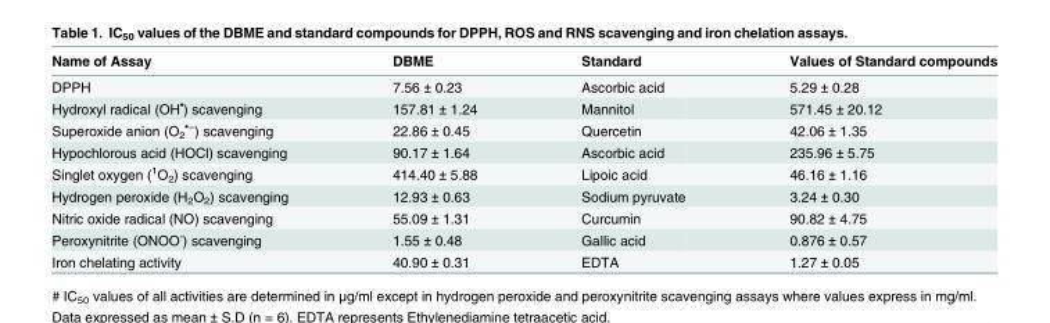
<table><thead><tr><td>Name of Assay</td><td>DBME</td><td>Standard</td><td>Values of Standard compounds</td></tr></thead><tbody><tr><td>DPPH</td><td>7.56 ± 0.23</td><td>Ascorbic acid</td><td>5.29 ± 0.28</td></tr><tr><td>Hydroxyl radical (OH<sup>•</sup>) scavenging</td><td>157.81 ± 1.24</td><td>Mannitol</td><td>571.45 ± 20.12</td></tr><tr><td>Superoxide anion (O<sub>2</sub> <sup>•−</sup>) scavenging</td><td>22.86 ± 0.45</td><td>Quercetin</td><td>42.06 ± 1.35</td></tr><tr><td>Hypochlorous acid (HOCl) scavenging</td><td>90.17 ± 1.64</td><td>Ascorbic acid</td><td>235.96 ± 5.75</td></tr><tr><td>Singlet oxygen (<sup>1</sup>O<sub>2</sub>) scavenging</td><td>414.40 ± 5.88</td><td>Lipoic acid</td><td>46.16 ± 1.16</td></tr><tr><td>Hydrogen peroxide (H<sub>2</sub>O<sub>2</sub>) scavenging</td><td>12.93 ± 0.63</td><td>Sodium pyruvate</td><td>3.24 ± 0.30</td></tr><tr><td>Nitric oxide radical (NO) scavenging</td><td>55.09 ± 1.31</td><td>Curcumin</td><td>90.82 ± 4.75</td></tr><tr><td>Peroxynitrite (ONOO<sup>-</sup>) scavenging</td><td>1.55 ± 0.48</td><td>Gallic acid</td><td>0.876 ± 0.57</td></tr><tr><td>Iron chelating activity</td><td>40.90 ± 0.31</td><td>EDTA</td><td>1.27 ± 0.05</td></tr></tbody></table>